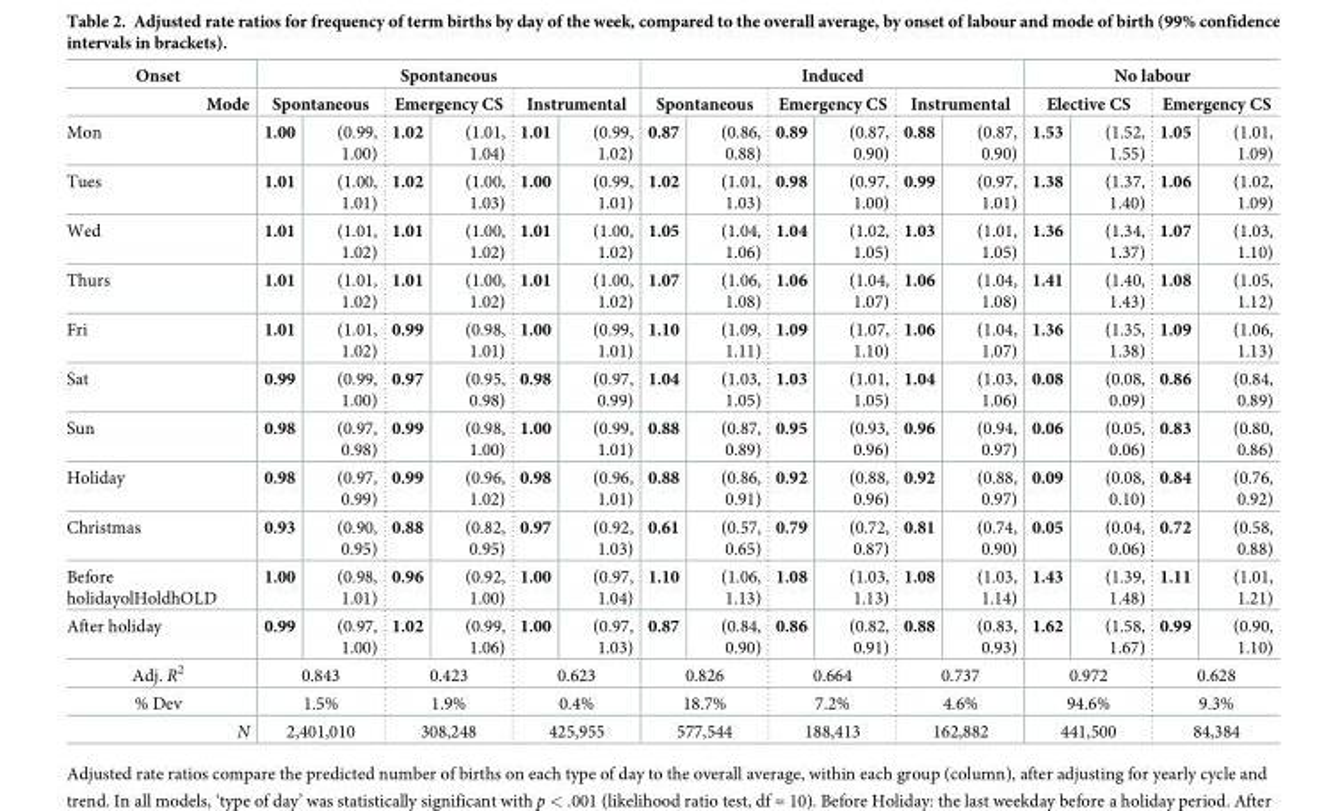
<table><thead><tr><td rowspan="3">Onset Mode Mon</td><td colspan="6">Spontaneous</td><td colspan="6">Induced</td><td colspan="4">No labour</td></tr><tr><td colspan="2">Spontaneous</td><td colspan="2">Emergency CS</td><td colspan="2">Instrumental</td><td colspan="2">Spontaneous</td><td colspan="2">Emergency CS</td><td colspan="2">Instrumental</td><td colspan="2">Elective CS</td><td colspan="2">Emergency CS</td></tr><tr><td>1.00</td><td>(0.99, 1.00)</td><td>1.02</td><td>(1.01, 1.04)</td><td>1.01</td><td>(0.99, 1.02)</td><td>0.87</td><td>(0.86, 0.88)</td><td>0.89</td><td>(0.87, 0.90)</td><td>0.88</td><td>(0.87, 0.90)</td><td>1.53</td><td>(1.52, 1.55)</td><td>1.05</td><td>(1.01, 1.09)</td></tr></thead><tbody><tr><td>Tues</td><td>1.01</td><td>(1.00, 1.01)</td><td>1.02</td><td>(1.00, 1.03)</td><td>1.00</td><td>(0.99, 1.01)</td><td>1.02</td><td>(1.01, 1.03)</td><td>0.98</td><td>(0.97, 1.00)</td><td>0.99</td><td>(0.97, 1.01)</td><td>1.38</td><td>(1.37, 1.40)</td><td>1.06</td><td>(1.02, 1.09)</td></tr><tr><td>Wed</td><td>1.01</td><td>(1.01, 1.02)</td><td>1.01</td><td>(1.00, 1.02)</td><td>1.01</td><td>(1.00, 1.02)</td><td>1.05</td><td>(1.04, 1.06)</td><td>1.04</td><td>(1.02, 1.05)</td><td>1.03</td><td>(1.01, 1.05)</td><td>1.36</td><td>(1.34, 1.37)</td><td>1.07</td><td>(1.03, 1.10)</td></tr><tr><td>Thurs</td><td>1.01</td><td>(1.01, 1.02)</td><td>1.01</td><td>(1.00, 1.02)</td><td>1.01</td><td>(1.00, 1.02)</td><td>1.07</td><td>(1.06, 1.08)</td><td>1.06</td><td>(1.04, 1.07)</td><td>1.06</td><td>(1.04, 1.08)</td><td>1.41</td><td>(1.40, 1.43)</td><td>1.08</td><td>(1.05, 1.12)</td></tr><tr><td>Fri</td><td>1.01</td><td>(1.01, 1.02)</td><td>0.99</td><td>(0.98, 1.01)</td><td>1.00</td><td>(0.99, 1.01)</td><td>1.10</td><td>(1.09, 1.11)</td><td>1.09</td><td>(1.07, 1.10)</td><td>1.06</td><td>(1.04, 1.07)</td><td>1.36</td><td>(1.35, 1.38)</td><td>1.09</td><td>(1.06, 1.13)</td></tr><tr><td>Sat</td><td>0.99</td><td>(0.99, 1.00)</td><td>0.97</td><td>(0.95, 0.98)</td><td>0.98</td><td>(0.97, 0.99)</td><td>1.04</td><td>(1.03, 1.05)</td><td>1.03</td><td>(1.01, 1.05)</td><td>1.04</td><td>(1.03, 1.06)</td><td>0.08</td><td>(0.08, 0.09)</td><td>0.86</td><td>(0.84, 0.89)</td></tr><tr><td>Sun</td><td>0.98</td><td>(0.97, 0.98)</td><td>0.99</td><td>(0.98, 1.00)</td><td>1.00</td><td>(0.99, 1.01)</td><td>0.88</td><td>(0.87, 0.89)</td><td>0.95</td><td>(0.93, 0.96)</td><td>0.96</td><td>(0.94, 0.97)</td><td>0.06</td><td>(0.05, 0.06)</td><td>0.83</td><td>(0.80, 0.86)</td></tr><tr><td>Holiday</td><td>0.98</td><td>(0.97, 0.99)</td><td>0.99</td><td>(0.96, 1.02)</td><td>0.98</td><td>(0.96, 1.01)</td><td>0.88</td><td>(0.86, 0.91)</td><td>0.92</td><td>(0.88, 0.96)</td><td>0.92</td><td>(0.88, 0.97)</td><td>0.09</td><td>(0.08, 0.10)</td><td>0.84</td><td>(0.76, 0.92)</td></tr><tr><td>Christmas</td><td>0.93</td><td>(0.90, 0.95)</td><td>0.88</td><td>(0.82, 0.95)</td><td>0.97</td><td>(0.92, 1.03)</td><td>0.61</td><td>(0.57, 0.65)</td><td>0.79</td><td>(0.72, 0.87)</td><td>0.81</td><td>(0.74, 0.90)</td><td>0.05</td><td>(0.04, 0.06)</td><td>0.72</td><td>(0.58, 0.88)</td></tr><tr><td>Before holidayolHoldhOLD</td><td>1.00</td><td>(0.98, 1.01)</td><td>0.96</td><td>(0.92, 1.00)</td><td>1.00</td><td>(0.97, 1.04)</td><td>1.10</td><td>(1.06, 1.13)</td><td>1.08</td><td>(1.03, 1.13)</td><td>1.08</td><td>(1.03, 1.14)</td><td>1.43</td><td>(1.39, 1.48)</td><td>1.11</td><td>(1.01, 1.21)</td></tr><tr><td>After holiday</td><td>0.99</td><td>(0.97, 1.00)</td><td>1.02</td><td>(0.99, 1.06)</td><td>1.00</td><td>(0.97, 1.03)</td><td>0.87</td><td>(0.84, 0.90)</td><td>0.86</td><td>(0.82, 0.91)</td><td>0.88</td><td>(0.83, 0.93)</td><td>1.62</td><td>(1.58, 1.67)</td><td>0.99</td><td>(0.90, 1.10)</td></tr><tr><td>Adj. R<sup>2</sup></td><td colspan="2">0.843</td><td colspan="2">0.423</td><td colspan="2">0.623</td><td colspan="2">0.826</td><td colspan="2">0.664</td><td colspan="2">0.737</td><td colspan="2">0.972</td><td colspan="2">0.628</td></tr><tr><td>% Dev</td><td colspan="2">1.5%</td><td colspan="2">1.9%</td><td colspan="2">0.4%</td><td colspan="2">18.7%</td><td colspan="2">7.2%</td><td colspan="2">4.6%</td><td colspan="2">94.6%</td><td colspan="2">9.3%</td></tr><tr><td>N</td><td colspan="2">2,401,010</td><td colspan="2">308,248</td><td colspan="2">425,955</td><td colspan="2">577,544</td><td colspan="2">188,413</td><td colspan="2">162,882</td><td colspan="2">441,500</td><td colspan="2">84,384</td></tr></tbody></table>